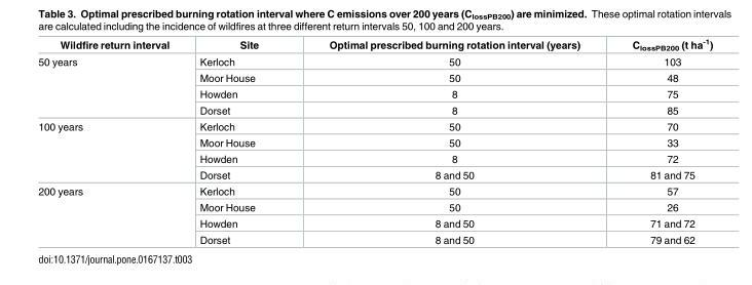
<table><thead><tr><td>Wildfire return interval</td><td>Site</td><td>Optimal prescribed burning rotation interval (years)</td><td>C<sub>lossPB200</sub> (t ha<sup>-1</sup>)</td></tr></thead><tbody><tr><td rowspan="4">50 years</td><td>Kerloch</td><td>50</td><td>103</td></tr><tr><td>Moor House</td><td>50</td><td>48</td></tr><tr><td>Howden</td><td>8</td><td>75</td></tr><tr><td>Dorset</td><td>8</td><td>85</td></tr><tr><td rowspan="4">100 years</td><td>Kerloch</td><td>50</td><td>70</td></tr><tr><td>Moor House</td><td>50</td><td>33</td></tr><tr><td>Howden</td><td>8</td><td>72</td></tr><tr><td>Dorset</td><td>8 and 50</td><td>81 and 75</td></tr><tr><td rowspan="4">200 years</td><td>Kerloch</td><td>50</td><td>57</td></tr><tr><td>Moor House</td><td>50</td><td>26</td></tr><tr><td>Howden</td><td>8 and 50</td><td>71 and 72</td></tr><tr><td>Dorset</td><td>8 and 50</td><td>79 and 62</td></tr></tbody></table>